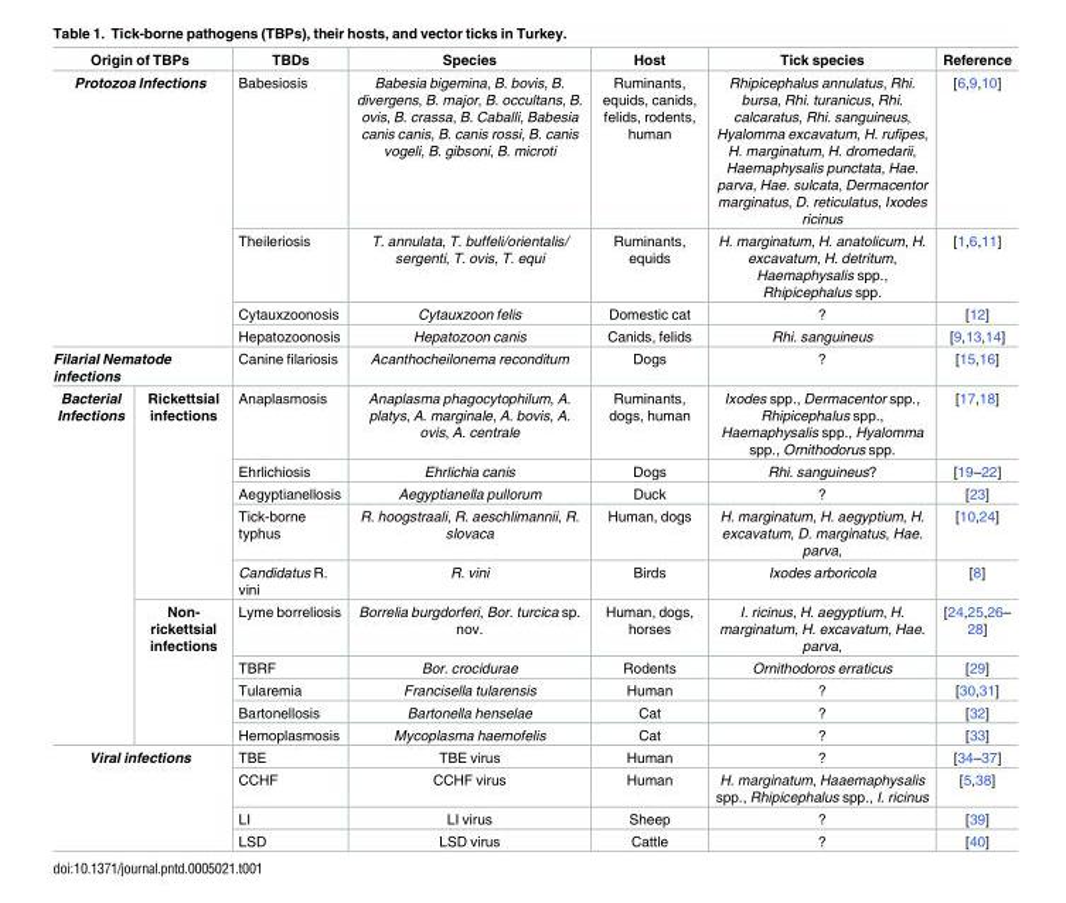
<table><thead><tr><td colspan="2">Origin of TBPs</td><td>TBDs</td><td>Species</td><td>Host</td><td>Tick species</td><td>Reference</td></tr></thead><tbody><tr><td rowspan="4" colspan="2">Protozoa Infections</td><td>Babesiosis</td><td>Babesia bigemina, B. bovis, B. divergens, B. major, B. occultans, B. ovis, B. crassa, B. Caballi, Babesia canis canis, B. canis rossi, B. canis vogeli, B. gibsoni, B. microti</td><td>Ruminants, equids, canids, felids, rodents, human</td><td>Rhipicephalus annulatus, Rhi. bursa, Rhi. turanicus, Rhi. calcaratus, Rhi. sanguineus, Hyalomma excavatum, H. rufipes, H. marginatum, H. dromedarii, Haemaphysalis punctata, Hae. parva, Hae. sulcata, Dermacentor marginatus, D. reticulatus, Ixodes ricinus</td><td>[6,9,10]</td></tr><tr><td>Theileriosis</td><td>T. annulata, T. buffeli/orientalis/ sergenti, T. ovis, T. equi</td><td>Ruminants, equids</td><td>H. marginatum, H. anatolicum, H. excavatum, H. detritum, Haemaphysalis spp., Rhipicephalus spp.</td><td>[1,6,11]</td></tr><tr><td>Cytauxzoonosis</td><td>Cytauxzoon felis</td><td>Domestic cat</td><td>?</td><td>[12]</td></tr><tr><td>Hepatozoonosis</td><td>Hepatozoon canis</td><td>Canids, felids</td><td>Rhi. sanguineus</td><td>[9,13,14]</td></tr><tr><td colspan="2">Filarial Nematode infections</td><td>Canine filariosis</td><td>Acanthocheilonema reconditum</td><td>Dogs</td><td>?</td><td>[15,16]</td></tr><tr><td rowspan="10">Bacterial Infections</td><td rowspan="5">Rickettsial infections</td><td>Anaplasmosis</td><td>Anaplasma phagocytophilum, A. platys, A. marginale, A. bovis, A. ovis, A. centrale</td><td>Ruminants, dogs, human</td><td>Ixodes spp., Dermacentor spp., Rhipicephalus spp., Haemaphysalis spp., Hyalomma spp., Ornithodorus spp.</td><td>[17,18]</td></tr><tr><td>Ehrlichiosis</td><td>Ehrlichia canis</td><td>Dogs</td><td>Rhi. sanguineus?</td><td>[19–22]</td></tr><tr><td>Aegyptianellosis</td><td>Aegyptianella pullorum</td><td>Duck</td><td>?</td><td>[23]</td></tr><tr><td>Tick-borne typhus</td><td>R. hoogstraali, R. aeschlimannii, R. slovaca</td><td>Human, dogs</td><td>H. marginatum, H. aegyptium, H. excavatum, D. marginatus, Hae. parva,</td><td>[10,24]</td></tr><tr><td>Candidatus R. vini</td><td>R. vini</td><td>Birds</td><td>Ixodes arboricola</td><td>[8]</td></tr><tr><td rowspan="5">Non- rickettsial infections</td><td>Lyme borreliosis</td><td>Borrelia burgdorferi, Bor. turcica sp. nov.</td><td>Human, dogs, horses</td><td>I. ricinus, H. aegyptium, H. marginatum, H. excavatum, Hae. parva,</td><td>[24,25,26– 28]</td></tr><tr><td>TBRF</td><td>Bor. crocidurae</td><td>Rodents</td><td>Ornithodoros erraticus</td><td>[29]</td></tr><tr><td>Tularemia</td><td>Francisella tularensis</td><td>Human</td><td>?</td><td>[30,31]</td></tr><tr><td>Bartonellosis</td><td>Bartonella henselae</td><td>Cat</td><td>?</td><td>[32]</td></tr><tr><td>Hemoplasmosis</td><td>Mycoplasma haemofelis</td><td>Cat</td><td>?</td><td>[33]</td></tr><tr><td rowspan="4" colspan="2">Viral infections</td><td>TBE</td><td>TBE virus</td><td>Human</td><td>?</td><td>[34–37]</td></tr><tr><td>CCHF</td><td>CCHF virus</td><td>Human</td><td>H. marginatum, Haaemaphysalis spp., Rhipicephalus spp., I. ricinus</td><td>[5,38]</td></tr><tr><td>LI</td><td>LI virus</td><td>Sheep</td><td>?</td><td>[39]</td></tr><tr><td>LSD</td><td>LSD virus</td><td>Cattle</td><td>?</td><td>[40]</td></tr></tbody></table>